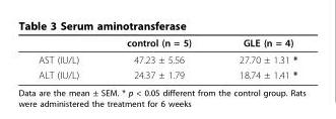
<table><thead><tr><td></td><td>control (n = 5)</td><td>GLE (n = 4)</td></tr></thead><tbody><tr><td>AST (IU/L)</td><td>47.23 ± 5.56</td><td>27.70 ± 1.31 *</td></tr><tr><td>ALT (IU/L)</td><td>24.37 ± 1.79</td><td>18.74 ± 1.41 *</td></tr></tbody></table>